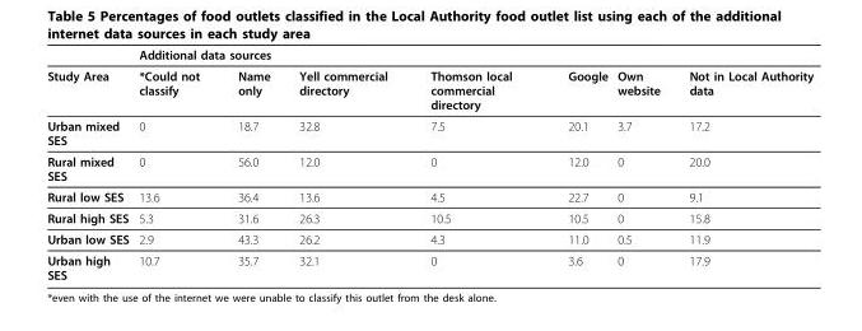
<table><thead><tr><td rowspan="2">Study Area</td><td colspan="7">Additional data sources</td></tr><tr><td>*Could not classify</td><td>Name only</td><td>Yell commercial directory</td><td>Thomson local commercial directory</td><td>Google</td><td>Own website</td><td>Not in Local Authority data</td></tr></thead><tbody><tr><td>Urban mixed SES</td><td>0</td><td>18.7</td><td>32.8</td><td>7.5</td><td>20.1</td><td>3.7</td><td>17.2</td></tr><tr><td>Rural mixed SES</td><td>0</td><td>56.0</td><td>12.0</td><td>0</td><td>12.0</td><td>0</td><td>20.0</td></tr><tr><td>Rural low SES</td><td>13.6</td><td>36.4</td><td>13.6</td><td>4.5</td><td>22.7</td><td>0</td><td>9.1</td></tr><tr><td>Rural high SES</td><td>5.3</td><td>31.6</td><td>26.3</td><td>10.5</td><td>10.5</td><td>0</td><td>15.8</td></tr><tr><td>Urban low SES</td><td>2.9</td><td>43.3</td><td>26.2</td><td>4.3</td><td>11.0</td><td>0.5</td><td>11.9</td></tr><tr><td>Urban high SES</td><td>10.7</td><td>35.7</td><td>32.1</td><td>0</td><td>3.6</td><td>0</td><td>17.9</td></tr></tbody></table>